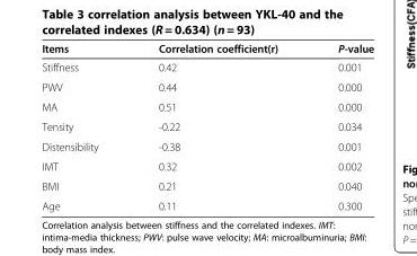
<table><thead><tr><td>Items</td><td>Correlation coefficient(r)</td><td>P-value</td></tr></thead><tbody><tr><td>Stiffness</td><td>0.42</td><td>0.001</td></tr><tr><td>PWV</td><td>0.44</td><td>0.000</td></tr><tr><td>MA</td><td>0.51</td><td>0.000</td></tr><tr><td>Tensity</td><td>-0.22</td><td>0.034</td></tr><tr><td>Distensibility</td><td>-0.38</td><td>0.001</td></tr><tr><td>IMT</td><td>0.32</td><td>0.002</td></tr><tr><td>BMI</td><td>0.21</td><td>0.040</td></tr><tr><td>Age</td><td>0.11</td><td>0.300</td></tr></tbody></table>